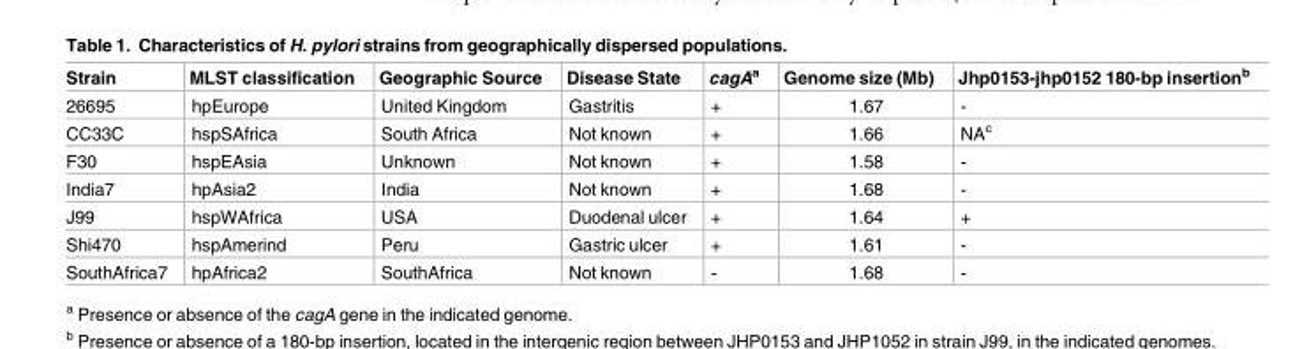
<table><thead><tr><td>Strain</td><td>MLST classification</td><td>Geographic Source</td><td>Disease State</td><td>cagA<sup>a</sup></td><td>Genome size (Mb)</td><td>Jhp0153-jhp0152 180-bp insertion<sup>b</sup></td></tr></thead><tbody><tr><td>26695</td><td>hpEurope</td><td>United Kingdom</td><td>Gastritis</td><td>+</td><td>1.67</td><td>-</td></tr><tr><td>CC33C</td><td>hspSAfrica</td><td>South Africa</td><td>Not known</td><td>+</td><td>1.66</td><td>NA<sup>c</sup></td></tr><tr><td>F30</td><td>hspEAsia</td><td>Unknown</td><td>Not known</td><td>+</td><td>1.58</td><td>-</td></tr><tr><td>India7</td><td>hpAsia2</td><td>India</td><td>Not known</td><td>+</td><td>1.68</td><td>-</td></tr><tr><td>J99</td><td>hspWAfrica</td><td>USA</td><td>Duodenal ulcer</td><td>+</td><td>1.64</td><td>+</td></tr><tr><td>Shi470</td><td>hspAmerind</td><td>Peru</td><td>Gastric ulcer</td><td>+</td><td>1.61</td><td>-</td></tr><tr><td>SouthAfrica7</td><td>hpAfrica2</td><td>SouthAfrica</td><td>Not known</td><td>-</td><td>1.68</td><td>-</td></tr></tbody></table>